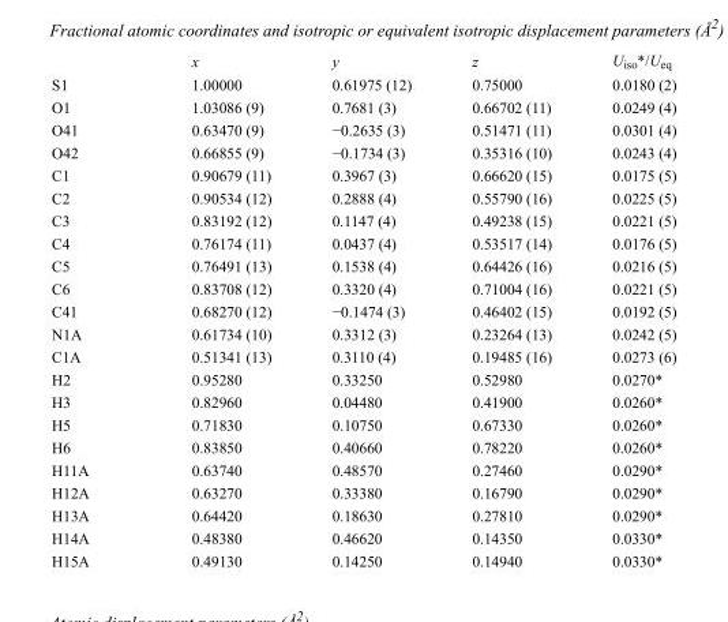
<table><thead><tr><td></td><td>x</td><td>y</td><td>z</td><td>U<sub>iso</sub>*/U<sub>eq</sub></td></tr></thead><tbody><tr><td>S1</td><td>1.00000</td><td>0.61975 (12)</td><td>0.75000</td><td>0.0180 (2)</td></tr><tr><td>O1</td><td>1.03086 (9)</td><td>0.7681 (3)</td><td>0.66702 (11)</td><td>0.0249 (4)</td></tr><tr><td>O41</td><td>0.63470 (9)</td><td>−0.2635 (3)</td><td>0.51471 (11)</td><td>0.0301 (4)</td></tr><tr><td>O42</td><td>0.66855 (9)</td><td>−0.1734 (3)</td><td>0.35316 (10)</td><td>0.0243 (4)</td></tr><tr><td>C1</td><td>0.90679 (11)</td><td>0.3967 (3)</td><td>0.66620 (15)</td><td>0.0175 (5)</td></tr><tr><td>C2</td><td>0.90534 (12)</td><td>0.2888 (4)</td><td>0.55790 (16)</td><td>0.0225 (5)</td></tr><tr><td>C3</td><td>0.83192 (12)</td><td>0.1147 (4)</td><td>0.49238 (15)</td><td>0.0221 (5)</td></tr><tr><td>C4</td><td>0.76174 (11)</td><td>0.0437 (4)</td><td>0.53517 (14)</td><td>0.0176 (5)</td></tr><tr><td>C5</td><td>0.76491 (13)</td><td>0.1538 (4)</td><td>0.64426 (16)</td><td>0.0216 (5)</td></tr><tr><td>C6</td><td>0.83708 (12)</td><td>0.3320 (4)</td><td>0.71004 (16)</td><td>0.0221 (5)</td></tr><tr><td>C41</td><td>0.68270 (12)</td><td>−0.1474 (3)</td><td>0.46402 (15)</td><td>0.0192 (5)</td></tr><tr><td>N1A</td><td>0.61734 (10)</td><td>0.3312 (3)</td><td>0.23264 (13)</td><td>0.0242 (5)</td></tr><tr><td>C1A</td><td>0.51341 (13)</td><td>0.3110 (4)</td><td>0.19485 (16)</td><td>0.0273 (6)</td></tr><tr><td>H2</td><td>0.95280</td><td>0.33250</td><td>0.52980</td><td>0.0270*</td></tr><tr><td>H3</td><td>0.82960</td><td>0.04480</td><td>0.41900</td><td>0.0260*</td></tr><tr><td>H5</td><td>0.71830</td><td>0.10750</td><td>0.67330</td><td>0.0260*</td></tr><tr><td>H6</td><td>0.83850</td><td>0.40660</td><td>0.78220</td><td>0.0260*</td></tr><tr><td>H11A</td><td>0.63740</td><td>0.48570</td><td>0.27460</td><td>0.0290*</td></tr><tr><td>H12A</td><td>0.63270</td><td>0.33380</td><td>0.16790</td><td>0.0290*</td></tr><tr><td>H13A</td><td>0.64420</td><td>0.18630</td><td>0.27810</td><td>0.0290*</td></tr><tr><td>H14A</td><td>0.48380</td><td>0.46620</td><td>0.14350</td><td>0.0330*</td></tr><tr><td>H15A</td><td>0.49130</td><td>0.14250</td><td>0.14940</td><td>0.0330*</td></tr></tbody></table>